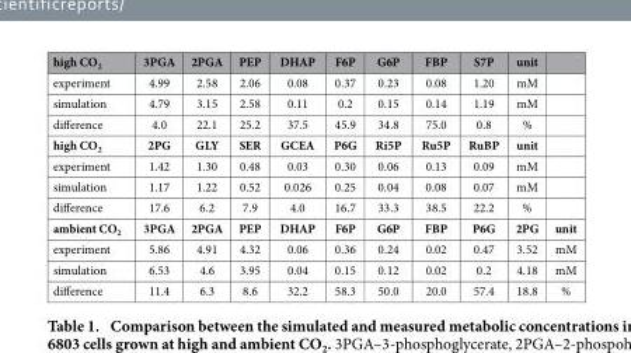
<table><thead><tr><td>high CO<sub>2</sub></td><td>3PGA</td><td>2PGA</td><td>PEP</td><td>DHAP</td><td>F6P</td><td>G6P</td><td>FBP</td><td>S7P</td><td>unit</td><td></td></tr></thead><tbody><tr><td>experiment</td><td>4.99</td><td>2.58</td><td>2.06</td><td>0.08</td><td>0.37</td><td>0.23</td><td>0.08</td><td>1.20</td><td>mM</td><td></td></tr><tr><td>simulation</td><td>4.79</td><td>3.15</td><td>2.58</td><td>0.11</td><td>0.2</td><td>0.15</td><td>0.14</td><td>1.19</td><td>mM</td><td></td></tr><tr><td>difference</td><td>4.0</td><td>22.1</td><td>25.2</td><td>37.5</td><td>45.9</td><td>34.8</td><td>75.0</td><td>0.8</td><td>%</td><td></td></tr><tr><td>high CO<sub>2</sub></td><td>2PG</td><td>GLY</td><td>SER</td><td>GCEA</td><td>P6G</td><td>Ri5P</td><td>Ru5P</td><td>RuBP</td><td>unit</td><td></td></tr><tr><td>experiment</td><td>1.42</td><td>1.30</td><td>0.48</td><td>0.03</td><td>0.30</td><td>0.06</td><td>0.13</td><td>0.09</td><td>mM</td><td></td></tr><tr><td>simulation</td><td>1.17</td><td>1.22</td><td>0.52</td><td>0.026</td><td>0.25</td><td>0.04</td><td>0.08</td><td>0.07</td><td>mM</td><td></td></tr><tr><td>difference</td><td>17.6</td><td>6.2</td><td>7.9</td><td>4.0</td><td>16.7</td><td>33.3</td><td>38.5</td><td>22.2</td><td>%</td><td></td></tr><tr><td>ambient CO<sub>2</sub></td><td>3PGA</td><td>2PGA</td><td>PEP</td><td>DHAP</td><td>F6P</td><td>G6P</td><td>FBP</td><td>P6G</td><td>2PG</td><td>unit</td></tr><tr><td>experiment</td><td>5.86</td><td>4.91</td><td>4.32</td><td>0.06</td><td>0.36</td><td>0.24</td><td>0.02</td><td>0.47</td><td>3.52</td><td>mM</td></tr><tr><td>simulation</td><td>6.53</td><td>4.6</td><td>3.95</td><td>0.04</td><td>0.15</td><td>0.12</td><td>0.02</td><td>0.2</td><td>4.18</td><td>mM</td></tr><tr><td>difference</td><td>11.4</td><td>6.3</td><td>8.6</td><td>32.2</td><td>58.3</td><td>50.0</td><td>20.0</td><td>57.4</td><td>18.8</td><td>%</td></tr></tbody></table>